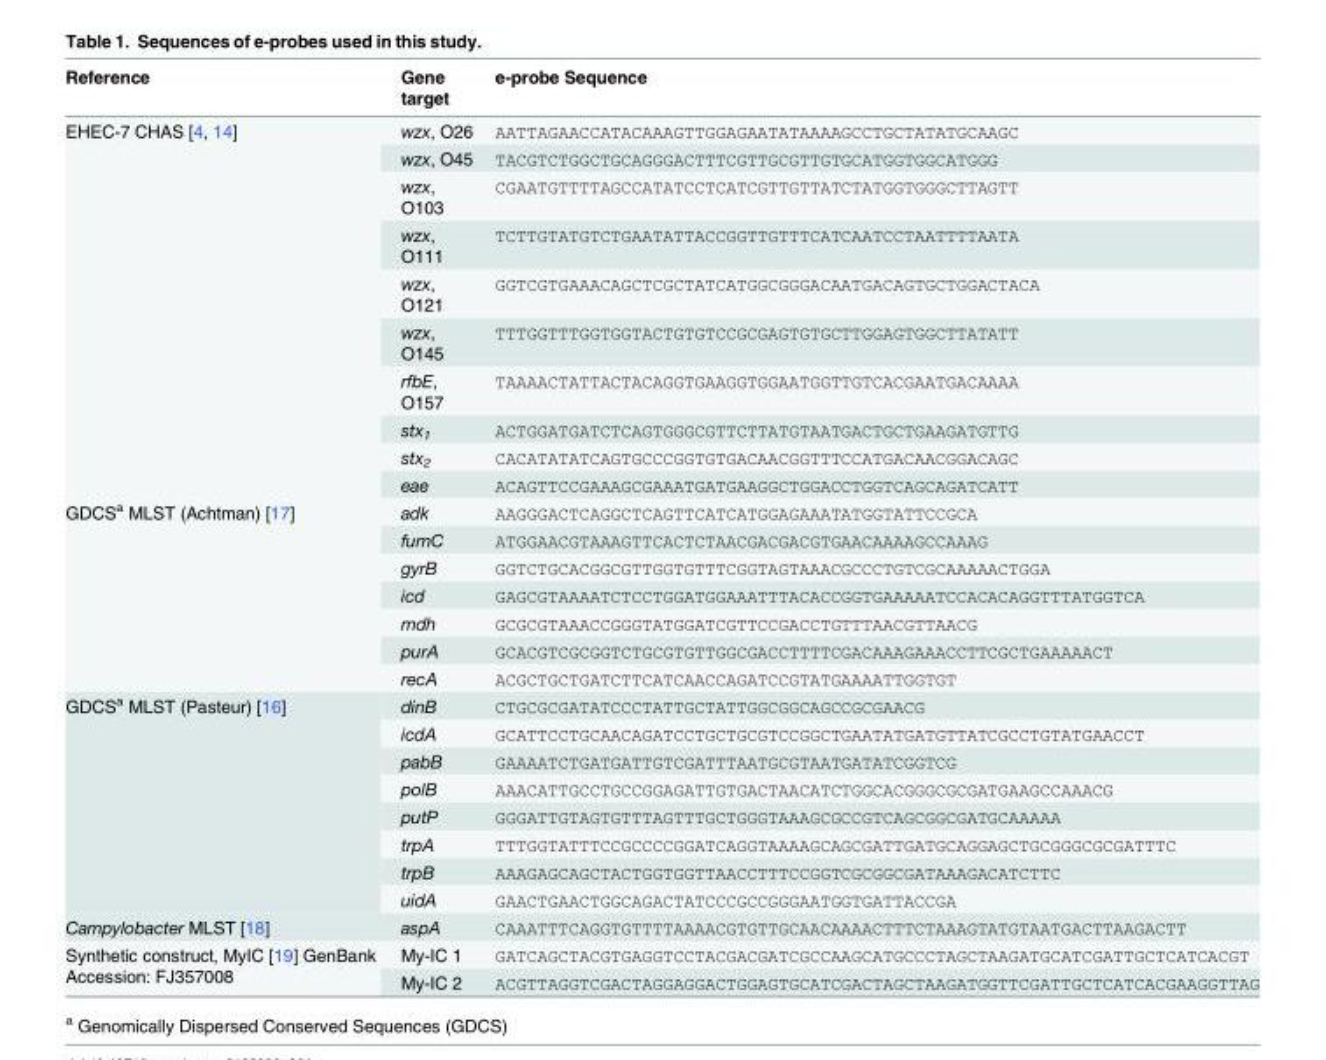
<table><thead><tr><td>Reference</td><td>Gene target</td><td>e-probe Sequence</td></tr></thead><tbody><tr><td rowspan="10">EHEC-7 CHAS [4, 14]</td><td>wzx, O26</td><td>AATTAGAACCATACAAAGTTGGAGAATATAAAAGCCTGCTATATGCAAGC</td></tr><tr><td>wzx, O45</td><td>TACGTCTGGCTGCAGGGACTTTCGTTGCGTTGTGCATGGTGGCATGGG</td></tr><tr><td>wzx, O103</td><td>CGAATGTTTTAGCCATATCCTCATCGTTGTTATCTATGGTGGGCTTAGTT</td></tr><tr><td>wzx, O111</td><td>TCTTGTATGTCTGAATATTACCGGTTGTTTCATCAATCCTAATTTTAATA</td></tr><tr><td>wzx, O121</td><td>GGTCGTGAAACAGCTCGCTATCATGGCGGGACAATGACAGTGCTGGACTACA</td></tr><tr><td>wzx, O145</td><td>TTTGGTTTGGTGGTACTGTGTCCGCGAGTGTGCTTGGAGTGGCTTATATT</td></tr><tr><td>rfbE, O157</td><td>TAAAACTATTACTACAGGTGAAGGTGGAATGGTTGTCACGAATGACAAAA</td></tr><tr><td>stx<sub>1</sub></td><td>ACTGGATGATCTCAGTGGGCGTTCTTATGTAATGACTGCTGAAGATGTTG</td></tr><tr><td>stx<sub>2</sub></td><td>CACATATATCAGTGCCCGGTGTGACAACGGTTTCCATGACAACGGACAGC</td></tr><tr><td>eae</td><td>ACAGTTCCGAAAGCGAAATGATGAAGGCTGGACCTGGTCAGCAGATCATT</td></tr><tr><td rowspan="7">GDCS<sup>a</sup> MLST (Achtman) [17]</td><td>adk</td><td>AAGGGACTCAGGCTCAGTTCATCATGGAGAAATATGGTATTCCGCA</td></tr><tr><td>fumC</td><td>ATGGAACGTAAAGTTCACTCTAACGACGACGTGAACAAAAGCCAAAG</td></tr><tr><td>gyrB</td><td>GGTCTGCACGGCGTTGGTGTTTCGGTAGTAAACGCCCTGTCGCAAAAACTGGA</td></tr><tr><td>icd</td><td>GAGCGTAAAATCTCCTGGATGGAAATTTACACCGGTGAAAAATCCACACAGGTTTATGGTCA</td></tr><tr><td>mdh</td><td>GCGCGTAAACCGGGTATGGATCGTTCCGACCTGTTTAACGTTAACG</td></tr><tr><td>purA</td><td>GCACGTCGCGGTCTGCGTGTTGGCGACCTTTTCGACAAAGAAACCTTCGCTGAAAAACT</td></tr><tr><td>recA</td><td>ACGCTGCTGATCTTCATCAACCAGATCCGTATGAAAATTGGTGT</td></tr><tr><td rowspan="8">GDCS<sup>a</sup> MLST (Pasteur) [16]</td><td>dinB</td><td>CTGCGCGATATCCCTATTGCTATTGGCGGCAGCCGCGAACG</td></tr><tr><td>icdA</td><td>GCATTCCTGCAACAGATCCTGCTGCGTCCGGCTGAATATGATGTTATCGCCTGTATGAACCT</td></tr><tr><td>pabB</td><td>GAAAATCTGATGATTGTCGATTTAATGCGTAATGATATCGGTCG</td></tr><tr><td>polB</td><td>AAACATTGCCTGCCGGAGATTGTGACTAACATCTGGCACGGGCGCGATGAAGCCAAACG</td></tr><tr><td>putP</td><td>GGGATTGTAGTGTTTAGTTTGCTGGGTAAAGCGCCGTCAGCGGCGATGCAAAAA</td></tr><tr><td>trpA</td><td>TTTGGTATTTCCGCCCCGGATCAGGTAAAAGCAGCGATTGATGCAGGAGCTGCGGGCGCGATTTC</td></tr><tr><td>trpB</td><td>AAAGAGCAGCTACTGGTGGTTAACCTTTCCGGTCGCGGCGATAAAGACATCTTC</td></tr><tr><td>uidA</td><td>GAACTGAACTGGCAGACTATCCCGCCGGGAATGGTGATTACCGA</td></tr><tr><td>Campylobacter MLST [18]</td><td>aspA</td><td>CAAATTTCAGGTGTTTTAAAACGTGTTGCAACAAAACTTTCTAAAGTATGTAATGACTTAAGACTT</td></tr><tr><td rowspan="2">Synthetic construct, MyIC [19] GenBank Accession: FJ357008</td><td>My-IC 1</td><td>GATCAGCTACGTGAGGTCCTACGACGATCGCCAAGCATGCCCTAGCTAAGATGCATCGATTGCTCATCACGT</td></tr><tr><td>My-IC 2</td><td>ACGTTAGGTCGACTAGGAGGACTGGAGTGCATCGACTAGCTAAGATGGTTCGATTGCTCATCACGAAGGTTAG</td></tr></tbody></table>